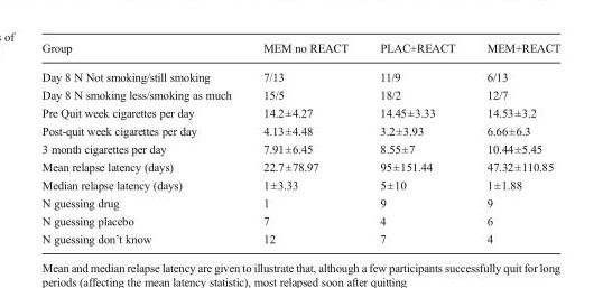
<table><thead><tr><td>Group</td><td>MEM no REACT</td><td>PLAC+REACT</td><td>MEM+REACT</td></tr></thead><tbody><tr><td>Day 8 N Not smoking/still smoking</td><td>7/13</td><td>11/9</td><td>6/13</td></tr><tr><td>Day 8 N smoking less/smoking as much</td><td>15/5</td><td>18/2</td><td>12/7</td></tr><tr><td>Pre Quit week cigarettes per day</td><td>14.2±4.27</td><td>14.45±3.33</td><td>14.53±3.2</td></tr><tr><td>Post-quit week cigarettes per day</td><td>4.13±4.48</td><td>3.2±3.93</td><td>6.66±6.3</td></tr><tr><td>3 month cigarettes per day</td><td>7.91±6.45</td><td>8.55±7</td><td>10.44±5.45</td></tr><tr><td>Mean relapse latency (days)</td><td>22.7±78.97</td><td>95±151.44</td><td>47.32±110.85</td></tr><tr><td>Median relapse latency (days)</td><td>1±3.33</td><td>5±10</td><td>1±1.88</td></tr><tr><td>N guessing drug</td><td>1</td><td>9</td><td>9</td></tr><tr><td>N guessing placebo</td><td>7</td><td>4</td><td>6</td></tr><tr><td>N guessing don’t know</td><td>12</td><td>7</td><td>4</td></tr></tbody></table>